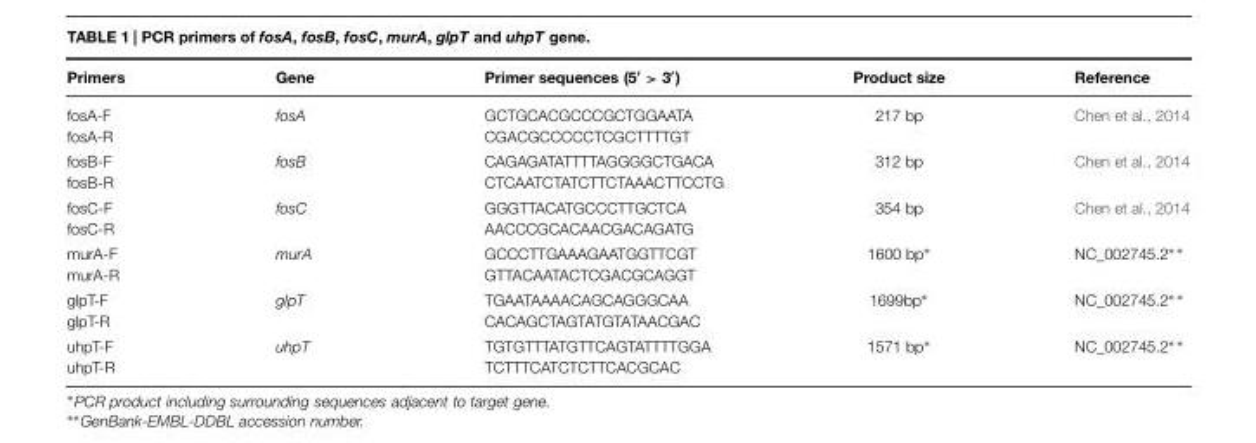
<table><thead><tr><td>Primers</td><td>Gene</td><td>Primer sequences (5′ &gt; 3′)</td><td>Product size</td><td>Reference</td></tr></thead><tbody><tr><td>fosA-F fosA-R</td><td>fosA</td><td>GCTGCACGCCCGCTGGAATA CGACGCCCCCTCGCTTTTGT</td><td>217 bp</td><td>Chen et al., 2014</td></tr><tr><td>fosB-F fosB-R</td><td>fosB</td><td>CAGAGATATTTTAGGGGCTGACA CTCAATCTATCTTCTAAACTTCCTG</td><td>312 bp</td><td>Chen et al., 2014</td></tr><tr><td>fosC-F fosC-R</td><td>fosC</td><td>GGGTTACATGCCCTTGCTCA AACCCGCACAACGACAGATG</td><td>354 bp</td><td>Chen et al., 2014</td></tr><tr><td>murA-F murA-R</td><td>murA</td><td>GCCCTTGAAAGAATGGTTCGT GTTACAATACTCGACGCAGGT</td><td>1600 bp∗</td><td>NC_002745.2∗ ∗</td></tr><tr><td>glpT-F glpT-R</td><td>glpT</td><td>TGAATAAAACAGCAGGGCAA CACAGCTAGTATGTATAACGAC</td><td>1699bp∗</td><td>NC_002745.2∗ ∗</td></tr><tr><td>uhpT-F uhpT-R</td><td>uhpT</td><td>TGTGTTTATGTTCAGTATTTTGGA TCTTTCATCTCTTCACGCAC</td><td>1571 bp∗</td><td>NC_002745.2∗ ∗</td></tr></tbody></table>